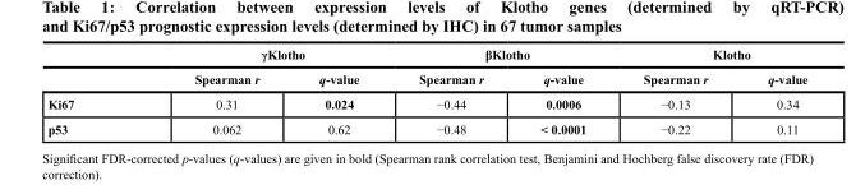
<table><thead><tr><td rowspan="2"></td><td colspan="2">γKlotho</td><td colspan="2">βKlotho</td><td colspan="2">Klotho</td></tr><tr><td>Spearman r</td><td>q-value</td><td>Spearman r</td><td>q-value</td><td>Spearman r</td><td>q-value</td></tr></thead><tbody><tr><td>Ki67</td><td>0.31</td><td>0.024</td><td>−0.44</td><td>0.0006</td><td>−0.13</td><td>0.34</td></tr><tr><td>p53</td><td>0.062</td><td>0.62</td><td>−0.48</td><td>&lt; 0.0001</td><td>−0.22</td><td>0.11</td></tr></tbody></table>